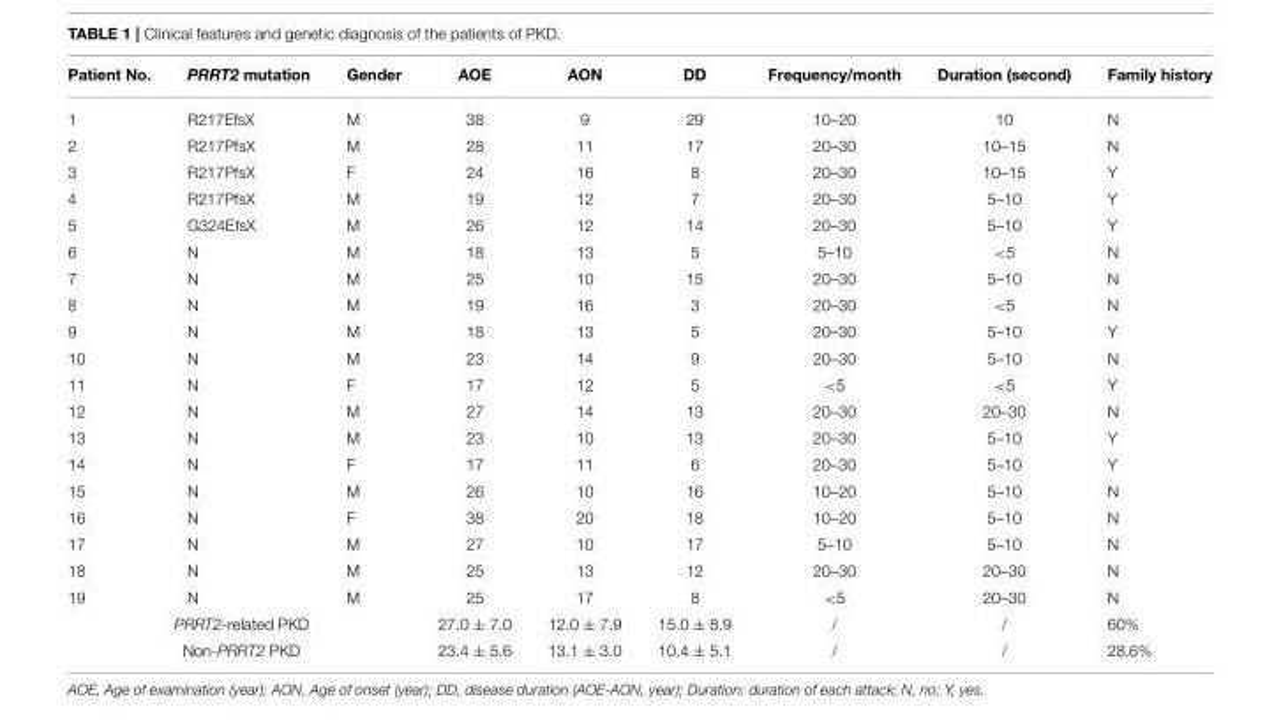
<table><thead><tr><td>Patient No.</td><td>PRRT2 mutation</td><td>Gender</td><td>AOE</td><td>AON</td><td>DD</td><td>Frequency/month</td><td>Duration (second)</td><td>Family history</td></tr></thead><tbody><tr><td>1</td><td>R217EfsX</td><td>M</td><td>38</td><td>9</td><td>29</td><td>10–20</td><td>10</td><td>N</td></tr><tr><td>2</td><td>R217PfsX</td><td>M</td><td>28</td><td>11</td><td>17</td><td>20–30</td><td>10–15</td><td>N</td></tr><tr><td>3</td><td>R217PfsX</td><td>F</td><td>24</td><td>16</td><td>8</td><td>20–30</td><td>10–15</td><td>Y</td></tr><tr><td>4</td><td>R217PfsX</td><td>M</td><td>19</td><td>12</td><td>7</td><td>20–30</td><td>5–10</td><td>Y</td></tr><tr><td>5</td><td>G324EfsX</td><td>M</td><td>26</td><td>12</td><td>14</td><td>20–30</td><td>5–10</td><td>Y</td></tr><tr><td>6</td><td>N</td><td>M</td><td>18</td><td>13</td><td>5</td><td>5–10</td><td>&lt;5</td><td>N</td></tr><tr><td>7</td><td>N</td><td>M</td><td>25</td><td>10</td><td>15</td><td>20–30</td><td>5–10</td><td>N</td></tr><tr><td>8</td><td>N</td><td>M</td><td>19</td><td>16</td><td>3</td><td>20–30</td><td>&lt;5</td><td>N</td></tr><tr><td>9</td><td>N</td><td>M</td><td>18</td><td>13</td><td>5</td><td>20–30</td><td>5–10</td><td>Y</td></tr><tr><td>10</td><td>N</td><td>M</td><td>23</td><td>14</td><td>9</td><td>20–30</td><td>5–10</td><td>N</td></tr><tr><td>11</td><td>N</td><td>F</td><td>17</td><td>12</td><td>5</td><td>&lt;5</td><td>&lt;5</td><td>Y</td></tr><tr><td>12</td><td>N</td><td>M</td><td>27</td><td>14</td><td>13</td><td>20–30</td><td>20–30</td><td>N</td></tr><tr><td>13</td><td>N</td><td>M</td><td>23</td><td>10</td><td>13</td><td>20–30</td><td>5–10</td><td>Y</td></tr><tr><td>14</td><td>N</td><td>F</td><td>17</td><td>11</td><td>6</td><td>20–30</td><td>5–10</td><td>Y</td></tr><tr><td>15</td><td>N</td><td>M</td><td>26</td><td>10</td><td>16</td><td>10–20</td><td>5–10</td><td>N</td></tr><tr><td>16</td><td>N</td><td>F</td><td>38</td><td>20</td><td>18</td><td>10–20</td><td>5–10</td><td>N</td></tr><tr><td>17</td><td>N</td><td>M</td><td>27</td><td>10</td><td>17</td><td>5–10</td><td>5–10</td><td>N</td></tr><tr><td>18</td><td>N</td><td>M</td><td>25</td><td>13</td><td>12</td><td>20–30</td><td>20–30</td><td>N</td></tr><tr><td>19</td><td>N</td><td>M</td><td>25</td><td>17</td><td>8</td><td>&lt;5</td><td>20–30</td><td>N</td></tr><tr><td colspan="3">PRRT2-related PKD</td><td>27.0 ± 7.0</td><td>12.0 ± 7.9</td><td>15.0 ± 8.9</td><td>/</td><td>/</td><td>60%</td></tr><tr><td colspan="3">Non-PRRT2 PKD</td><td>23.4 ± 5.6</td><td>13.1 ± 3.0</td><td>10.4 ± 5.1</td><td>/</td><td>/</td><td>28.6%</td></tr></tbody></table>